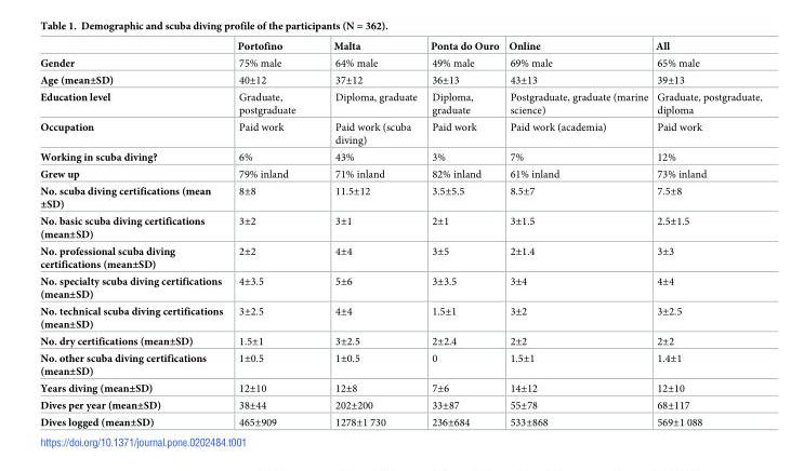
<table><thead><tr><td></td><td>Portofino</td><td>Malta</td><td>Ponta do Ouro</td><td>Online</td><td>All</td></tr></thead><tbody><tr><td>Gender</td><td>75% male</td><td>64% male</td><td>49% male</td><td>69% male</td><td>65% male</td></tr><tr><td>Age (mean±SD)</td><td>40±12</td><td>37±12</td><td>36±13</td><td>43±13</td><td>39±13</td></tr><tr><td>Education level</td><td>Graduate, postgraduate</td><td>Diploma, graduate</td><td>Diploma, graduate</td><td>Postgraduate, graduate (marine science)</td><td>Graduate, postgraduate, diploma</td></tr><tr><td>Occupation</td><td>Paid work</td><td>Paid work (scuba diving)</td><td>Paid work</td><td>Paid work (academia)</td><td>Paid work</td></tr><tr><td>Working in scuba diving?</td><td>6%</td><td>43%</td><td>3%</td><td>7%</td><td>12%</td></tr><tr><td>Grew up</td><td>79% inland</td><td>71% inland</td><td>82% inland</td><td>61% inland</td><td>73% inland</td></tr><tr><td>No. scuba diving certifications (mean ±SD)</td><td>8±8</td><td>11.5±12</td><td>3.5±5.5</td><td>8.5±7</td><td>7.5±8</td></tr><tr><td>No. basic scuba diving certifications (mean±SD)</td><td>3±2</td><td>3±1</td><td>2±1</td><td>3±1.5</td><td>2.5±1.5</td></tr><tr><td>No. professional scuba diving certifications (mean±SD)</td><td>2±2</td><td>4±4</td><td>3±5</td><td>2±1.4</td><td>3±3</td></tr><tr><td>No. specialty scuba diving certifications (mean±SD)</td><td>4±3.5</td><td>5±6</td><td>3±3.5</td><td>3±4</td><td>4±4</td></tr><tr><td>No. technical scuba diving certifications (mean±SD)</td><td>3±2.5</td><td>4±4</td><td>1.5±1</td><td>3±2</td><td>3±2.5</td></tr><tr><td>No. dry certifications (mean±SD)</td><td>1.5±1</td><td>3±2.5</td><td>2±2.4</td><td>2±2</td><td>2±2</td></tr><tr><td>No. other scuba diving certifications (mean±SD)</td><td>1±0.5</td><td>1±0.5</td><td>0</td><td>1.5±1</td><td>1.4±1</td></tr><tr><td>Years diving (mean±SD)</td><td>12±10</td><td>12±8</td><td>7±6</td><td>14±12</td><td>12±10</td></tr><tr><td>Dives per year (mean±SD)</td><td>38±44</td><td>202±200</td><td>33±87</td><td>55±78</td><td>68±117</td></tr><tr><td>Dives logged (mean±SD)</td><td>465±909</td><td>1278±1 730</td><td>236±684</td><td>533±868</td><td>569±1 088</td></tr></tbody></table>